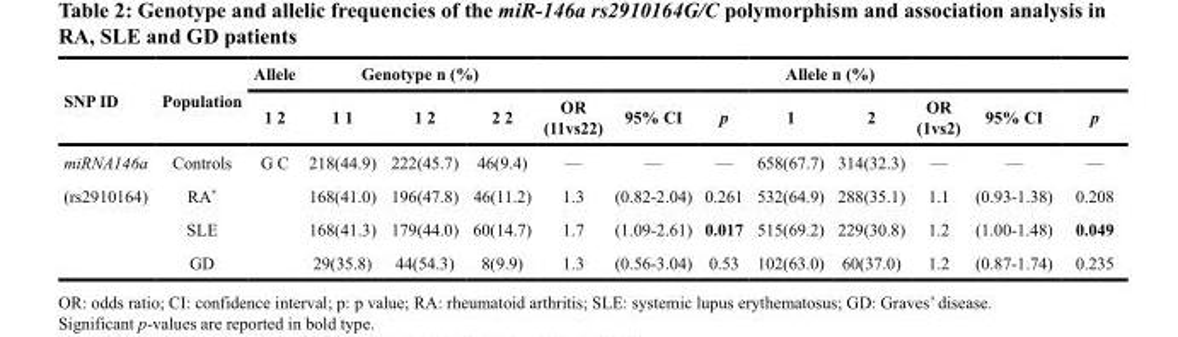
<table><thead><tr><td rowspan="2">SNP ID</td><td rowspan="2">Population</td><td rowspan="2">Allele 1 2</td><td colspan="3">Genotype n (%)</td><td rowspan="2">OR (11vs22)</td><td rowspan="2">95% CI</td><td rowspan="2">p</td><td colspan="2">Allele n (%)</td><td rowspan="2">OR (1vs2)</td><td rowspan="2">95% CI</td><td rowspan="2">p</td></tr><tr><td>1 1</td><td>1 2</td><td>2 2</td><td>1</td><td>2</td></tr></thead><tbody><tr><td>miRNA146a</td><td>Controls</td><td>G C</td><td>218(44.9)</td><td>222(45.7)</td><td>46(9.4)</td><td>—</td><td>—</td><td>—</td><td>658(67.7)</td><td>314(32.3)</td><td>—</td><td>—</td><td>—</td></tr><tr><td rowspan="3">(rs2910164)</td><td>RA*</td><td></td><td>168(41.0)</td><td>196(47.8)</td><td>46(11.2)</td><td>1.3</td><td>(0.82-2.04)</td><td>0.261</td><td>532(64.9)</td><td>288(35.1)</td><td>1.1</td><td>(0.93-1.38)</td><td>0.208</td></tr><tr><td>SLE</td><td></td><td>168(41.3)</td><td>179(44.0)</td><td>60(14.7)</td><td>1.7</td><td>(1.09-2.61)</td><td>0.017</td><td>515(69.2)</td><td>229(30.8)</td><td>1.2</td><td>(1.00-1.48)</td><td>0.049</td></tr><tr><td>GD</td><td></td><td>29(35.8)</td><td>44(54.3)</td><td>8(9.9)</td><td>1.3</td><td>(0.56-3.04)</td><td>0.53</td><td>102(63.0)</td><td>60(37.0)</td><td>1.2</td><td>(0.87-1.74)</td><td>0.235</td></tr></tbody></table>